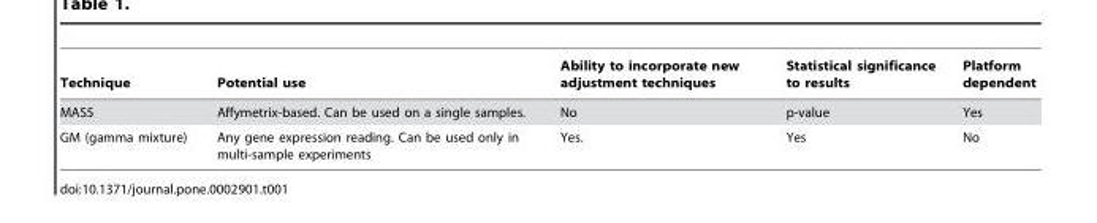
<table><thead><tr><td>Technique</td><td>Potential use</td><td>Ability to incorporate new adjustment techniques</td><td>Statistical significance to results</td><td>Platform dependent</td></tr></thead><tbody><tr><td>MAS5</td><td>Affymetrix-based. Can be used on a single samples.</td><td>No</td><td>p-value</td><td>Yes</td></tr><tr><td>GM (gamma mixture)</td><td>Any gene expression reading. Can be used only in multi-sample experiments</td><td>Yes.</td><td>Yes</td><td>No</td></tr></tbody></table>